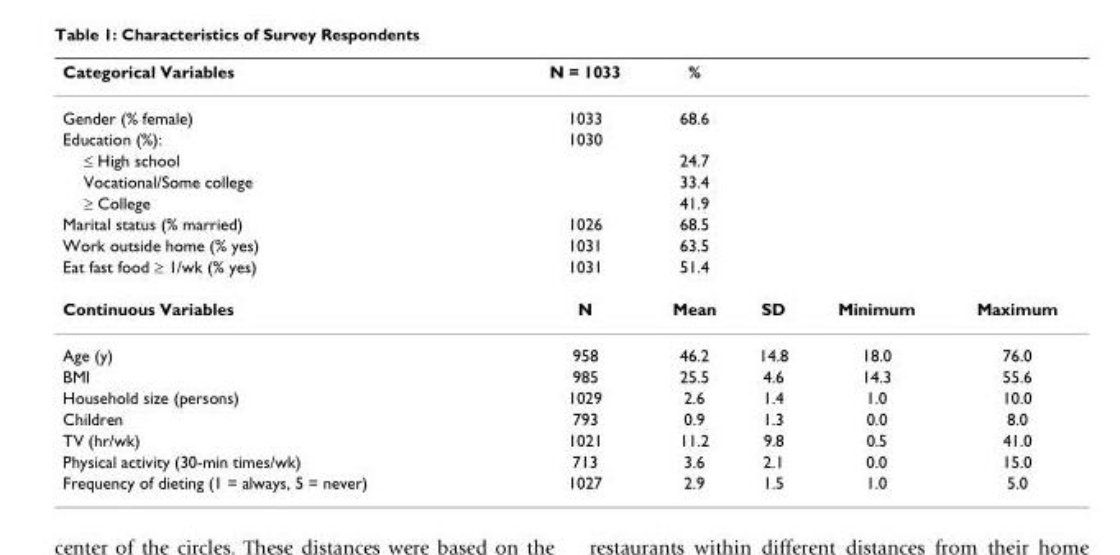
<table><thead><tr><td>Categorical Variables</td><td>N = 1033</td><td>%</td><td></td><td></td><td></td></tr></thead><tbody><tr><td>Gender (% female)</td><td>1033</td><td>68.6</td><td></td><td></td><td></td></tr><tr><td>Education (%):</td><td>1030</td><td></td><td></td><td></td><td></td></tr><tr><td>≤ High school</td><td></td><td>24.7</td><td></td><td></td><td></td></tr><tr><td>Vocational/Some college</td><td></td><td>33.4</td><td></td><td></td><td></td></tr><tr><td>≥ College</td><td></td><td>41.9</td><td></td><td></td><td></td></tr><tr><td>Marital status (% married)</td><td>1026</td><td>68.5</td><td></td><td></td><td></td></tr><tr><td>Work outside home (% yes)</td><td>1031</td><td>63.5</td><td></td><td></td><td></td></tr><tr><td>Eat fast food ≥ 1/wk (% yes)</td><td>1031</td><td>51.4</td><td></td><td></td><td></td></tr><tr><td>Continuous Variables</td><td>N</td><td>Mean</td><td>SD</td><td>Minimum</td><td>Maximum</td></tr><tr><td>Age (y)</td><td>958</td><td>46.2</td><td>14.8</td><td>18.0</td><td>76.0</td></tr><tr><td>BMI</td><td>985</td><td>25.5</td><td>4.6</td><td>14.3</td><td>55.6</td></tr><tr><td>Household size (persons)</td><td>1029</td><td>2.6</td><td>1.4</td><td>1.0</td><td>10.0</td></tr><tr><td>Children</td><td>793</td><td>0.9</td><td>1.3</td><td>0.0</td><td>8.0</td></tr><tr><td>TV (hr/wk)</td><td>1021</td><td>11.2</td><td>9.8</td><td>0.5</td><td>41.0</td></tr><tr><td>Physical activity (30-min times/wk)</td><td>713</td><td>3.6</td><td>2.1</td><td>0.0</td><td>15.0</td></tr><tr><td>Frequency of dieting (1 = always, 5 = never)</td><td>1027</td><td>2.9</td><td>1.5</td><td>1.0</td><td>5.0</td></tr></tbody></table>